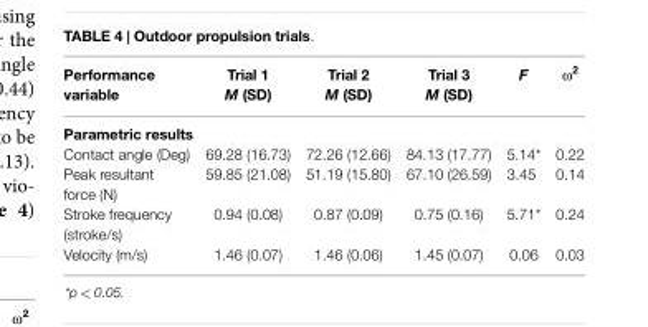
<table><thead><tr><td>Performance variable</td><td>Trial 1 M (SD)</td><td>Trial 2 M (SD)</td><td>Trial 3 M (SD)</td><td>F</td><td>ω<sup>2</sup></td></tr></thead><tbody><tr><td colspan="6">Parametric results</td></tr><tr><td>Contact angle (Deg)</td><td>69.28 (16.73)</td><td>72.26 (12.66)</td><td>84.13 (17.77)</td><td>5.14*</td><td>0.22</td></tr><tr><td>Peak resultant force (N)</td><td>59.85 (21.08)</td><td>51.19 (15.80)</td><td>67.10 (26.59)</td><td>3.45</td><td>0.14</td></tr><tr><td>Stroke frequency (stroke/s)</td><td>0.94 (0.08)</td><td>0.87 (0.09)</td><td>0.75 (0.16)</td><td>5.71*</td><td>0.24</td></tr><tr><td>Velocity (m/s)</td><td>1.46 (0.07)</td><td>1.46 (0.06)</td><td>1.45 (0.07)</td><td>0.06</td><td>0.03</td></tr></tbody></table>